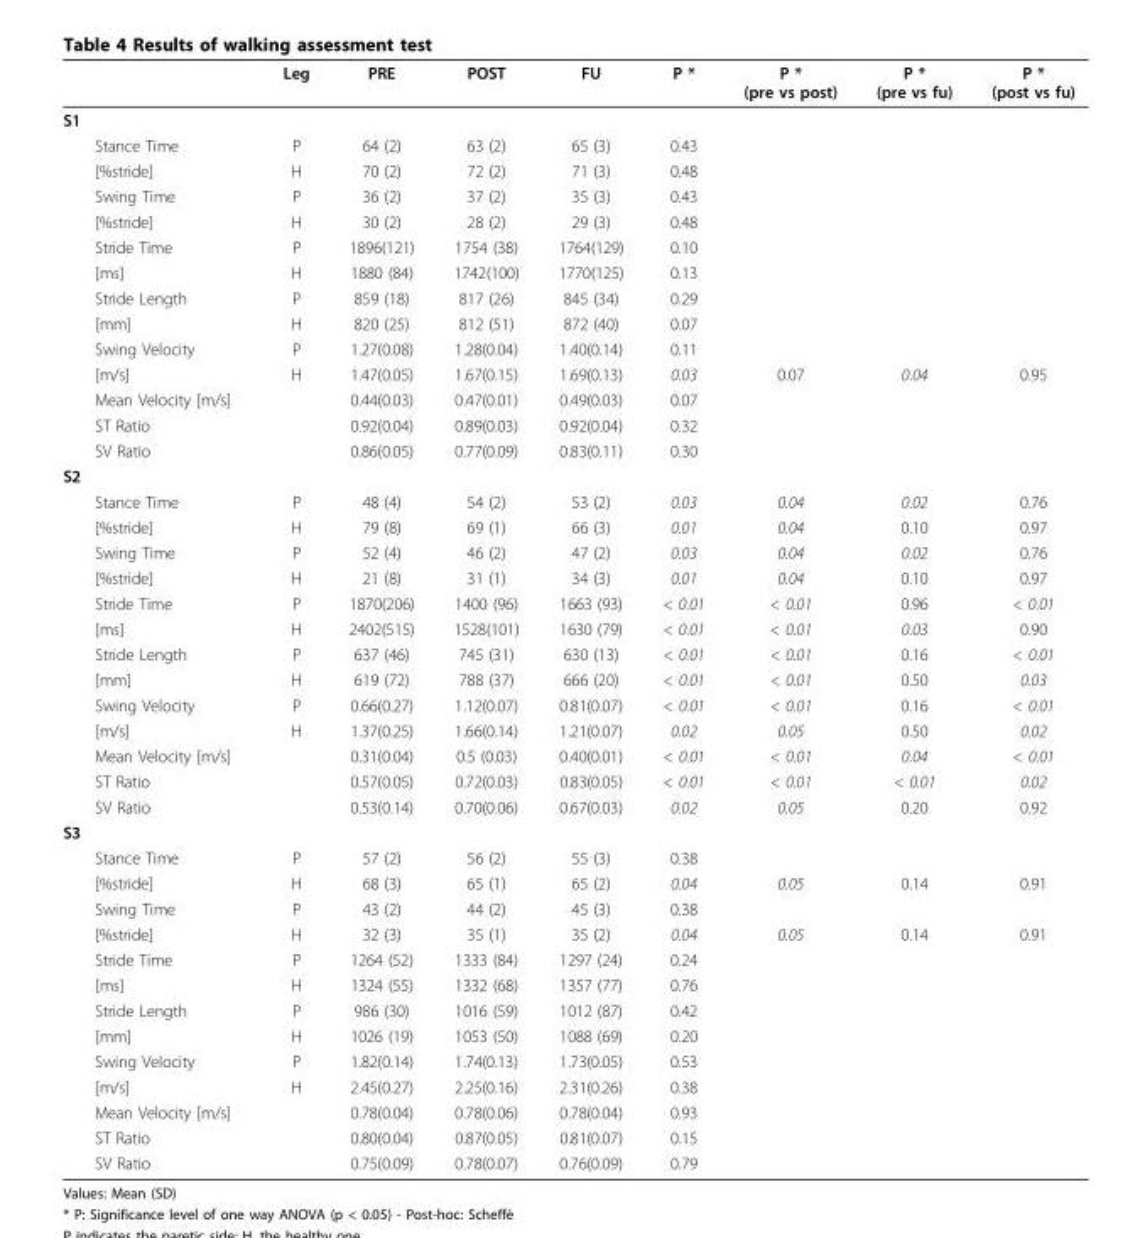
<table><thead><tr><td></td><td>Leg</td><td>PRE</td><td>POST</td><td>FU</td><td>P *</td><td>P * (pre vs post)</td><td>P * (pre vs fu)</td><td>P * (post vs fu)</td></tr></thead><tbody><tr><td colspan="9">S1</td></tr><tr><td>Stance Time</td><td>P</td><td>64 (2)</td><td>63 (2)</td><td>65 (3)</td><td>0.43</td><td></td><td></td><td></td></tr><tr><td>[%stride]</td><td>H</td><td>70 (2)</td><td>72 (2)</td><td>71 (3)</td><td>0.48</td><td></td><td></td><td></td></tr><tr><td>Swing Time</td><td>P</td><td>36 (2)</td><td>37 (2)</td><td>35 (3)</td><td>0.43</td><td></td><td></td><td></td></tr><tr><td>[%stride]</td><td>H</td><td>30 (2)</td><td>28 (2)</td><td>29 (3)</td><td>0.48</td><td></td><td></td><td></td></tr><tr><td>Stride Time</td><td>P</td><td>1896(121)</td><td>1754 (38)</td><td>1764(129)</td><td>0.10</td><td></td><td></td><td></td></tr><tr><td>[ms]</td><td>H</td><td>1880 (84)</td><td>1742(100)</td><td>1770(125)</td><td>0.13</td><td></td><td></td><td></td></tr><tr><td>Stride Length</td><td>P</td><td>859 (18)</td><td>817 (26)</td><td>845 (34)</td><td>0.29</td><td></td><td></td><td></td></tr><tr><td>[mm]</td><td>H</td><td>820 (25)</td><td>812 (51)</td><td>872 (40)</td><td>0.07</td><td></td><td></td><td></td></tr><tr><td>Swing Velocity</td><td>P</td><td>1.27(0.08)</td><td>1.28(0.04)</td><td>1.40(0.14)</td><td>0.11</td><td></td><td></td><td></td></tr><tr><td>[m/s]</td><td>H</td><td>1.47(0.05)</td><td>1.67(0.15)</td><td>1.69(0.13)</td><td>0.03</td><td>0.07</td><td>0.04</td><td>0.95</td></tr><tr><td>Mean Velocity [m/s]</td><td></td><td>0.44(0.03)</td><td>0.47(0.01)</td><td>0.49(0.03)</td><td>0.07</td><td></td><td></td><td></td></tr><tr><td>ST Ratio</td><td></td><td>0.92(0.04)</td><td>0.89(0.03)</td><td>0.92(0.04)</td><td>0.32</td><td></td><td></td><td></td></tr><tr><td>SV Ratio</td><td></td><td>0.86(0.05)</td><td>0.77(0.09)</td><td>0.83(0.11)</td><td>0.30</td><td></td><td></td><td></td></tr><tr><td colspan="9">S2</td></tr><tr><td>Stance Time</td><td>P</td><td>48 (4)</td><td>54 (2)</td><td>53 (2)</td><td>0.03</td><td>0.04</td><td>0.02</td><td>0.76</td></tr><tr><td>[%stride]</td><td>H</td><td>79 (8)</td><td>69 (1)</td><td>66 (3)</td><td>0.01</td><td>0.04</td><td>0.10</td><td>0.97</td></tr><tr><td>Swing Time</td><td>P</td><td>52 (4)</td><td>46 (2)</td><td>47 (2)</td><td>0.03</td><td>0.04</td><td>0.02</td><td>0.76</td></tr><tr><td>[%stride]</td><td>H</td><td>21 (8)</td><td>31 (1)</td><td>34 (3)</td><td>0.01</td><td>0.04</td><td>0.10</td><td>0.97</td></tr><tr><td>Stride Time</td><td>P</td><td>1870(206)</td><td>1400 (96)</td><td>1663 (93)</td><td>&lt; 0.01</td><td>&lt; 0.01</td><td>0.96</td><td>&lt; 0.01</td></tr><tr><td>[ms]</td><td>H</td><td>2402(515)</td><td>1528(101)</td><td>1630 (79)</td><td>&lt; 0.01</td><td>&lt; 0.01</td><td>0.03</td><td>0.90</td></tr><tr><td>Stride Length</td><td>P</td><td>637 (46)</td><td>745 (31)</td><td>630 (13)</td><td>&lt; 0.01</td><td>&lt; 0.01</td><td>0.16</td><td>&lt; 0.01</td></tr><tr><td>[mm]</td><td>H</td><td>619 (72)</td><td>788 (37)</td><td>666 (20)</td><td>&lt; 0.01</td><td>&lt; 0.01</td><td>0.50</td><td>0.03</td></tr><tr><td>Swing Velocity</td><td>P</td><td>0.66(0.27)</td><td>1.12(0.07)</td><td>0.81(0.07)</td><td>&lt; 0.01</td><td>&lt; 0.01</td><td>0.16</td><td>&lt; 0.01</td></tr><tr><td>[m/s]</td><td>H</td><td>1.37(0.25)</td><td>1.66(0.14)</td><td>1.21(0.07)</td><td>0.02</td><td>0.05</td><td>0.50</td><td>0.02</td></tr><tr><td>Mean Velocity [m/s]</td><td></td><td>0.31(0.04)</td><td>0.5 (0.03)</td><td>0.40(0.01)</td><td>&lt; 0.01</td><td>&lt; 0.01</td><td>0.04</td><td>&lt; 0.01</td></tr><tr><td>ST Ratio</td><td></td><td>0.57(0.05)</td><td>0.72(0.03)</td><td>0.83(0.05)</td><td>&lt; 0.01</td><td>&lt; 0.01</td><td>&lt; 0.01</td><td>0.02</td></tr><tr><td>SV Ratio</td><td></td><td>0.53(0.14)</td><td>0.70(0.06)</td><td>0.67(0.03)</td><td>0.02</td><td>0.05</td><td>0.20</td><td>0.92</td></tr><tr><td colspan="9">S3</td></tr><tr><td>Stance Time</td><td>P</td><td>57 (2)</td><td>56 (2)</td><td>55 (3)</td><td>0.38</td><td></td><td></td><td></td></tr><tr><td>[%stride]</td><td>H</td><td>68 (3)</td><td>65 (1)</td><td>65 (2)</td><td>0.04</td><td>0.05</td><td>0.14</td><td>0.91</td></tr><tr><td>Swing Time</td><td>P</td><td>43 (2)</td><td>44 (2)</td><td>45 (3)</td><td>0.38</td><td></td><td></td><td></td></tr><tr><td>[%stride]</td><td>H</td><td>32 (3)</td><td>35 (1)</td><td>35 (2)</td><td>0.04</td><td>0.05</td><td>0.14</td><td>0.91</td></tr><tr><td>Stride Time</td><td>P</td><td>1264 (52)</td><td>1333 (84)</td><td>1297 (24)</td><td>0.24</td><td></td><td></td><td></td></tr><tr><td>[ms]</td><td>H</td><td>1324 (55)</td><td>1332 (68)</td><td>1357 (77)</td><td>0.76</td><td></td><td></td><td></td></tr><tr><td>Stride Length</td><td>P</td><td>986 (30)</td><td>1016 (59)</td><td>1012 (87)</td><td>0.42</td><td></td><td></td><td></td></tr><tr><td>[mm]</td><td>H</td><td>1026 (19)</td><td>1053 (50)</td><td>1088 (69)</td><td>0.20</td><td></td><td></td><td></td></tr><tr><td>Swing Velocity</td><td>P</td><td>1.82(0.14)</td><td>1.74(0.13)</td><td>1.73(0.05)</td><td>0.53</td><td></td><td></td><td></td></tr><tr><td>[m/s]</td><td>H</td><td>2.45(0.27)</td><td>2.25(0.16)</td><td>2.31(0.26)</td><td>0.38</td><td></td><td></td><td></td></tr><tr><td>Mean Velocity [m/s]</td><td></td><td>0.78(0.04)</td><td>0.78(0.06)</td><td>0.78(0.04)</td><td>0.93</td><td></td><td></td><td></td></tr><tr><td>ST Ratio</td><td></td><td>0.80(0.04)</td><td>0.87(0.05)</td><td>0.81(0.07)</td><td>0.15</td><td></td><td></td><td></td></tr><tr><td>SV Ratio</td><td></td><td>0.75(0.09)</td><td>0.78(0.07)</td><td>0.76(0.09)</td><td>0.79</td><td></td><td></td><td></td></tr></tbody></table>